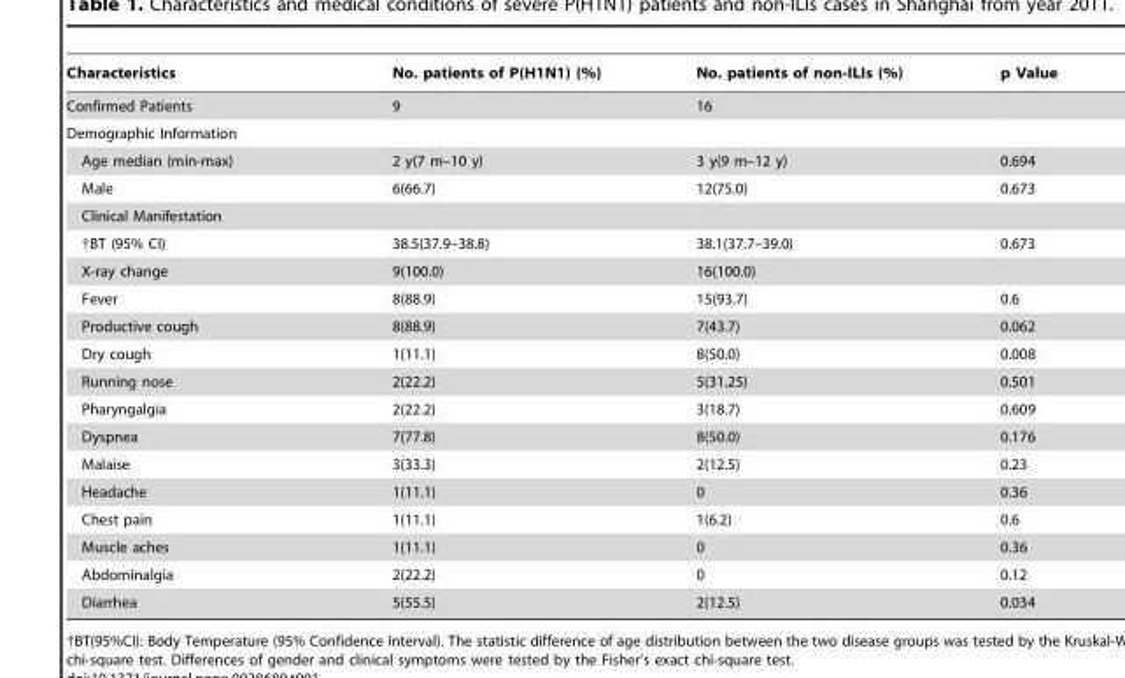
<table><thead><tr><td>Characteristics</td><td>No. patients of P(H1N1) (%)</td><td>No. patients of non-ILIs (%)</td><td>p Value</td></tr></thead><tbody><tr><td>Confirmed Patients</td><td>9</td><td>16</td><td></td></tr><tr><td colspan="4">Demographic Information</td></tr><tr><td>Age median (min-max)</td><td>2 y(7 m–10 y)</td><td>3 y(9 m–12 y)</td><td>0.694</td></tr><tr><td>Male</td><td>6(66.7)</td><td>12(75.0)</td><td>0.673</td></tr><tr><td colspan="4">Clinical Manifestation</td></tr><tr><td>†BT (95% CI)</td><td>38.5(37.9–38.8)</td><td>38.1(37.7–39.0)</td><td>0.673</td></tr><tr><td>X-ray change</td><td>9(100.0)</td><td>16(100.0)</td><td></td></tr><tr><td>Fever</td><td>8(88.9)</td><td>15(93.7)</td><td>0.6</td></tr><tr><td>Productive cough</td><td>8(88.9)</td><td>7(43.7)</td><td>0.062</td></tr><tr><td>Dry cough</td><td>1(11.1)</td><td>8(50.0)</td><td>0.008</td></tr><tr><td>Running nose</td><td>2(22.2)</td><td>5(31.25)</td><td>0.501</td></tr><tr><td>Pharyngalgia</td><td>2(22.2)</td><td>3(18.7)</td><td>0.609</td></tr><tr><td>Dyspnea</td><td>7(77.8)</td><td>8(50.0)</td><td>0.176</td></tr><tr><td>Malaise</td><td>3(33.3)</td><td>2(12.5)</td><td>0.23</td></tr><tr><td>Headache</td><td>1(11.1)</td><td>0</td><td>0.36</td></tr><tr><td>Chest pain</td><td>1(11.1)</td><td>1(6.2)</td><td>0.6</td></tr><tr><td>Muscle aches</td><td>1(11.1)</td><td>0</td><td>0.36</td></tr><tr><td>Abdominalgia</td><td>2(22.2)</td><td>0</td><td>0.12</td></tr><tr><td>Diarrhea</td><td>5(55.5)</td><td>2(12.5)</td><td>0.034</td></tr></tbody></table>